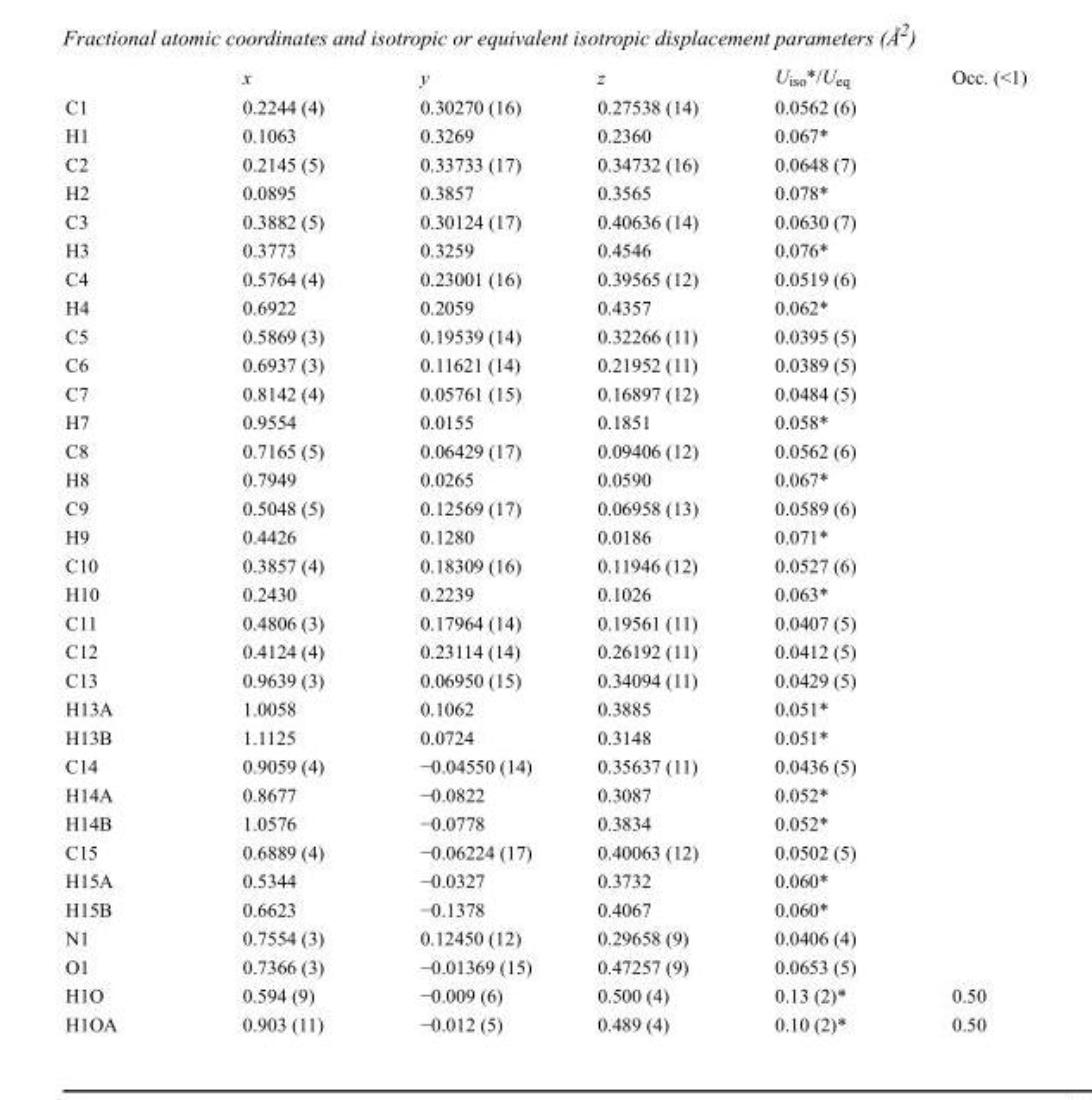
<table><thead><tr><td></td><td>x</td><td>y</td><td>z</td><td>U<sub>iso</sub>*/U<sub>eq</sub></td><td>Occ. (&lt;1)</td></tr></thead><tbody><tr><td>C1</td><td>0.2244 (4)</td><td>0.30270 (16)</td><td>0.27538 (14)</td><td>0.0562 (6)</td><td></td></tr><tr><td>H1</td><td>0.1063</td><td>0.3269</td><td>0.2360</td><td>0.067*</td><td></td></tr><tr><td>C2</td><td>0.2145 (5)</td><td>0.33733 (17)</td><td>0.34732 (16)</td><td>0.0648 (7)</td><td></td></tr><tr><td>H2</td><td>0.0895</td><td>0.3857</td><td>0.3565</td><td>0.078*</td><td></td></tr><tr><td>C3</td><td>0.3882 (5)</td><td>0.30124 (17)</td><td>0.40636 (14)</td><td>0.0630 (7)</td><td></td></tr><tr><td>H3</td><td>0.3773</td><td>0.3259</td><td>0.4546</td><td>0.076*</td><td></td></tr><tr><td>C4</td><td>0.5764 (4)</td><td>0.23001 (16)</td><td>0.39565 (12)</td><td>0.0519 (6)</td><td></td></tr><tr><td>H4</td><td>0.6922</td><td>0.2059</td><td>0.4357</td><td>0.062*</td><td></td></tr><tr><td>C5</td><td>0.5869 (3)</td><td>0.19539 (14)</td><td>0.32266 (11)</td><td>0.0395 (5)</td><td></td></tr><tr><td>C6</td><td>0.6937 (3)</td><td>0.11621 (14)</td><td>0.21952 (11)</td><td>0.0389 (5)</td><td></td></tr><tr><td>C7</td><td>0.8142 (4)</td><td>0.05761 (15)</td><td>0.16897 (12)</td><td>0.0484 (5)</td><td></td></tr><tr><td>H7</td><td>0.9554</td><td>0.0155</td><td>0.1851</td><td>0.058*</td><td></td></tr><tr><td>C8</td><td>0.7165 (5)</td><td>0.06429 (17)</td><td>0.09406 (12)</td><td>0.0562 (6)</td><td></td></tr><tr><td>H8</td><td>0.7949</td><td>0.0265</td><td>0.0590</td><td>0.067*</td><td></td></tr><tr><td>C9</td><td>0.5048 (5)</td><td>0.12569 (17)</td><td>0.06958 (13)</td><td>0.0589 (6)</td><td></td></tr><tr><td>H9</td><td>0.4426</td><td>0.1280</td><td>0.0186</td><td>0.071*</td><td></td></tr><tr><td>C10</td><td>0.3857 (4)</td><td>0.18309 (16)</td><td>0.11946 (12)</td><td>0.0527 (6)</td><td></td></tr><tr><td>H10</td><td>0.2430</td><td>0.2239</td><td>0.1026</td><td>0.063*</td><td></td></tr><tr><td>C11</td><td>0.4806 (3)</td><td>0.17964 (14)</td><td>0.19561 (11)</td><td>0.0407 (5)</td><td></td></tr><tr><td>C12</td><td>0.4124 (4)</td><td>0.23114 (14)</td><td>0.26192 (11)</td><td>0.0412 (5)</td><td></td></tr><tr><td>C13</td><td>0.9639 (3)</td><td>0.06950 (15)</td><td>0.34094 (11)</td><td>0.0429 (5)</td><td></td></tr><tr><td>H13A</td><td>1.0058</td><td>0.1062</td><td>0.3885</td><td>0.051*</td><td></td></tr><tr><td>H13B</td><td>1.1125</td><td>0.0724</td><td>0.3148</td><td>0.051*</td><td></td></tr><tr><td>C14</td><td>0.9059 (4)</td><td>−0.04550 (14)</td><td>0.35637 (11)</td><td>0.0436 (5)</td><td></td></tr><tr><td>H14A</td><td>0.8677</td><td>−0.0822</td><td>0.3087</td><td>0.052*</td><td></td></tr><tr><td>H14B</td><td>1.0576</td><td>−0.0778</td><td>0.3834</td><td>0.052*</td><td></td></tr><tr><td>C15</td><td>0.6889 (4)</td><td>−0.06224 (17)</td><td>0.40063 (12)</td><td>0.0502 (5)</td><td></td></tr><tr><td>H15A</td><td>0.5344</td><td>−0.0327</td><td>0.3732</td><td>0.060*</td><td></td></tr><tr><td>H15B</td><td>0.6623</td><td>−0.1378</td><td>0.4067</td><td>0.060*</td><td></td></tr><tr><td>N1</td><td>0.7554 (3)</td><td>0.12450 (12)</td><td>0.29658 (9)</td><td>0.0406 (4)</td><td></td></tr><tr><td>O1</td><td>0.7366 (3)</td><td>−0.01369 (15)</td><td>0.47257 (9)</td><td>0.0653 (5)</td><td></td></tr><tr><td>H1O</td><td>0.594 (9)</td><td>−0.009 (6)</td><td>0.500 (4)</td><td>0.13 (2)*</td><td>0.50</td></tr><tr><td>H1OA</td><td>0.903 (11)</td><td>−0.012 (5)</td><td>0.489 (4)</td><td>0.10 (2)*</td><td>0.50</td></tr></tbody></table>